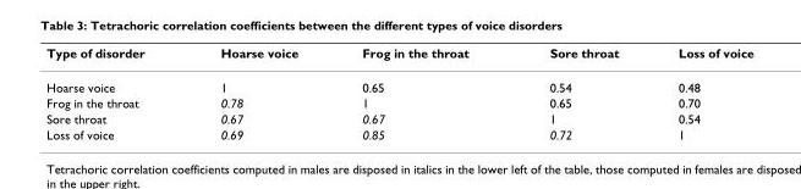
<table><thead><tr><td>Type of disorder</td><td>Hoarse voice</td><td>Frog in the throat</td><td>Sore throat</td><td>Loss of voice</td></tr></thead><tbody><tr><td>Hoarse voice</td><td>1</td><td>0.65</td><td>0.54</td><td>0.48</td></tr><tr><td>Frog in the throat</td><td>0.78</td><td>1</td><td>0.65</td><td>0.70</td></tr><tr><td>Sore throat</td><td>0.67</td><td>0.67</td><td>1</td><td>0.54</td></tr><tr><td>Loss of voice</td><td>0.69</td><td>0.85</td><td>0.72</td><td>1</td></tr></tbody></table>